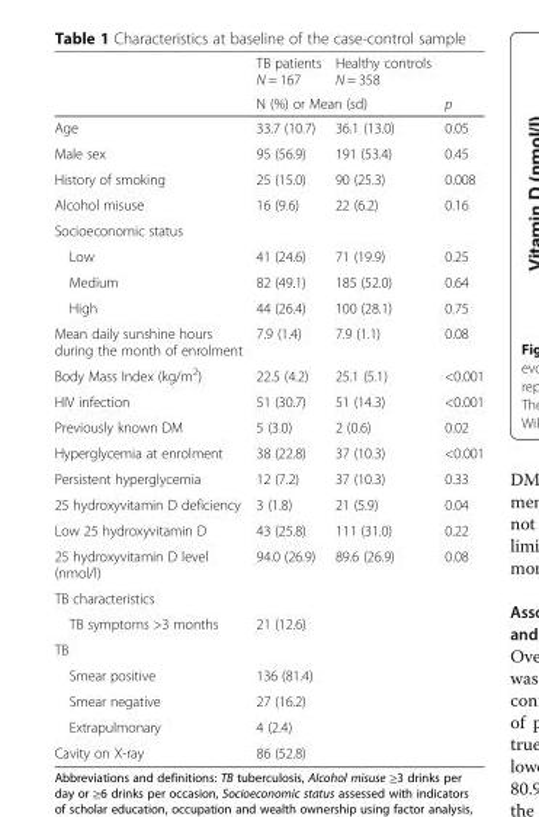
<table><thead><tr><td rowspan="2"></td><td>TB patients N = 167</td><td>Healthy controls N = 358</td><td rowspan="2">p</td></tr><tr><td colspan="2">N (%) or Mean (sd)</td></tr></thead><tbody><tr><td>Age</td><td>33.7 (10.7)</td><td>36.1 (13.0)</td><td>0.05</td></tr><tr><td>Male sex</td><td>95 (56.9)</td><td>191 (53.4)</td><td>0.45</td></tr><tr><td>History of smoking</td><td>25 (15.0)</td><td>90 (25.3)</td><td>0.008</td></tr><tr><td>Alcohol misuse</td><td>16 (9.6)</td><td>22 (6.2)</td><td>0.16</td></tr><tr><td colspan="4">Socioeconomic status</td></tr><tr><td>Low</td><td>41 (24.6)</td><td>71 (19.9)</td><td>0.25</td></tr><tr><td>Medium</td><td>82 (49.1)</td><td>185 (52.0)</td><td>0.64</td></tr><tr><td>High</td><td>44 (26.4)</td><td>100 (28.1)</td><td>0.75</td></tr><tr><td>Mean daily sunshine hours during the month of enrolment</td><td>7.9 (1.4)</td><td>7.9 (1.1)</td><td>0.08</td></tr><tr><td>Body Mass Index (kg/m<sup>2</sup>)</td><td>22.5 (4.2)</td><td>25.1 (5.1)</td><td>&lt;0.001</td></tr><tr><td>HIV infection</td><td>51 (30.7)</td><td>51 (14.3)</td><td>&lt;0.001</td></tr><tr><td>Previously known DM</td><td>5 (3.0)</td><td>2 (0.6)</td><td>0.02</td></tr><tr><td>Hyperglycemia at enrolment</td><td>38 (22.8)</td><td>37 (10.3)</td><td>&lt;0.001</td></tr><tr><td>Persistent hyperglycemia</td><td>12 (7.2)</td><td>37 (10.3)</td><td>0.33</td></tr><tr><td>25 hydroxyvitamin D deficiency</td><td>3 (1.8)</td><td>21 (5.9)</td><td>0.04</td></tr><tr><td>Low 25 hydroxyvitamin D</td><td>43 (25.8)</td><td>111 (31.0)</td><td>0.22</td></tr><tr><td>25 hydroxyvitamin D level (nmol/l)</td><td>94.0 (26.9)</td><td>89.6 (26.9)</td><td>0.08</td></tr><tr><td colspan="4">TB characteristics</td></tr><tr><td>TB symptoms &gt;3 months</td><td>21 (12.6)</td><td></td><td></td></tr><tr><td colspan="4">TB</td></tr><tr><td>Smear positive</td><td>136 (81.4)</td><td></td><td></td></tr><tr><td>Smear negative</td><td>27 (16.2)</td><td></td><td></td></tr><tr><td>Extrapulmonary</td><td>4 (2.4)</td><td></td><td></td></tr><tr><td>Cavity on X-ray</td><td>86 (52.8)</td><td></td><td></td></tr></tbody></table>